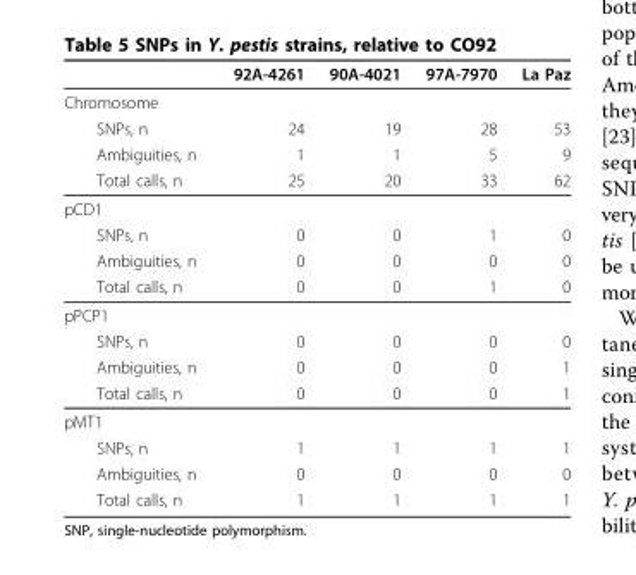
<table><thead><tr><td></td><td>92A-4261</td><td>90A-4021</td><td>97A-7970</td><td>La Paz</td></tr></thead><tbody><tr><td colspan="5">Chromosome</td></tr><tr><td>SNPs, n</td><td>24</td><td>19</td><td>28</td><td>53</td></tr><tr><td>Ambiguities, n</td><td>1</td><td>1</td><td>5</td><td>9</td></tr><tr><td>Total calls, n</td><td>25</td><td>20</td><td>33</td><td>62</td></tr><tr><td colspan="5">pCD1</td></tr><tr><td>SNPs, n</td><td>0</td><td>0</td><td>1</td><td>0</td></tr><tr><td>Ambiguities, n</td><td>0</td><td>0</td><td>0</td><td>0</td></tr><tr><td>Total calls, n</td><td>0</td><td>0</td><td>1</td><td>0</td></tr><tr><td colspan="5">pPCP1</td></tr><tr><td>SNPs, n</td><td>0</td><td>0</td><td>0</td><td>0</td></tr><tr><td>Ambiguities, n</td><td>0</td><td>0</td><td>0</td><td>1</td></tr><tr><td>Total calls, n</td><td>0</td><td>0</td><td>0</td><td>1</td></tr><tr><td colspan="5">pMT1</td></tr><tr><td>SNPs, n</td><td>1</td><td>1</td><td>1</td><td>1</td></tr><tr><td>Ambiguities, n</td><td>0</td><td>0</td><td>0</td><td>0</td></tr><tr><td>Total calls, n</td><td>1</td><td>1</td><td>1</td><td>1</td></tr></tbody></table>